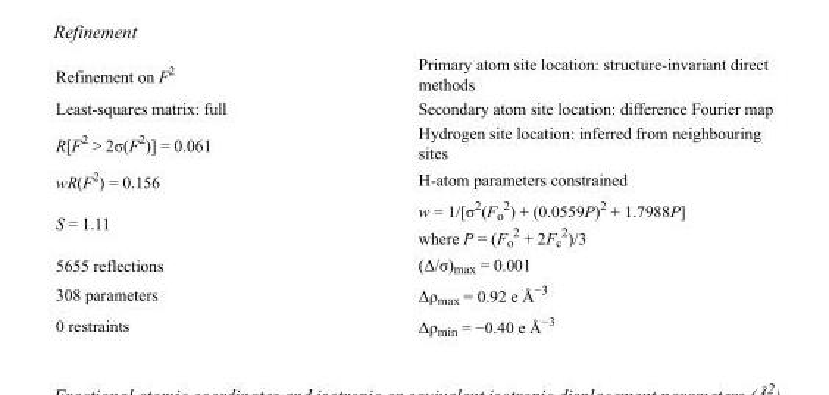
<table><tbody><tr><td>Refinement on F<sup>2</sup></td><td>Primary atom site location: structure-invariant direct methods</td></tr><tr><td>Least-squares matrix: full</td><td>Secondary atom site location: difference Fourier map</td></tr><tr><td>R[F<sup>2</sup> &gt; 2σ(F<sup>2</sup>)] = 0.061</td><td>Hydrogen site location: inferred from neighbouring sites</td></tr><tr><td>wR(F<sup>2</sup>) = 0.156</td><td>H-atom parameters constrained</td></tr><tr><td>S = 1.11</td><td>w = 1/[σ<sup>2</sup>(F<sub>o</sub> <sup>2</sup>) + (0.0559P)<sup>2</sup> + 1.7988P] where P = (F<sub>o</sub> <sup>2</sup> + 2F<sub>c</sub> <sup>2</sup>)/3</td></tr><tr><td>5655 reflections</td><td>(Δ/σ)<sub>max</sub> = 0.001</td></tr><tr><td>308 parameters</td><td>Δρ<sub>max</sub> = 0.92 e Å<sup>−3</sup></td></tr><tr><td>0 restraints</td><td>Δρ<sub>min</sub> = −0.40 e Å<sup>−3</sup></td></tr></tbody></table>